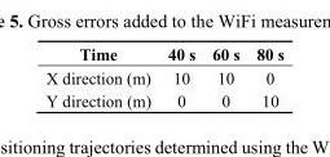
<table><thead><tr><td>Time</td><td>40 s</td><td>60 s</td><td>80 s</td></tr></thead><tbody><tr><td>X direction (m)</td><td>10</td><td>10</td><td>0</td></tr><tr><td>Y direction (m)</td><td>0</td><td>0</td><td>10</td></tr></tbody></table>